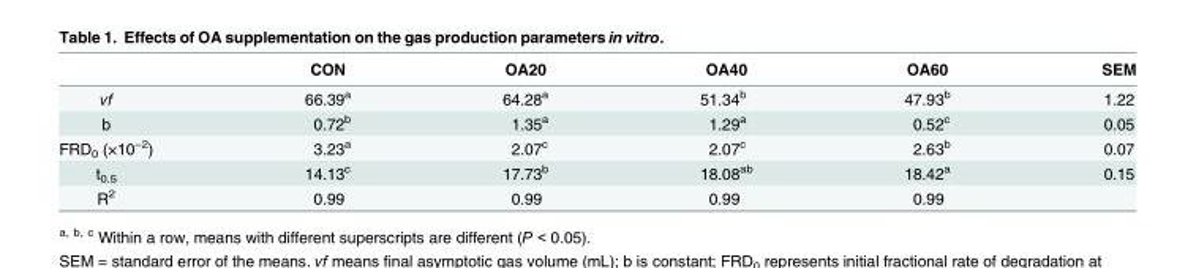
<table><thead><tr><td></td><td>CON</td><td>OA20</td><td>OA40</td><td>OA60</td><td>SEM</td></tr></thead><tbody><tr><td>vf</td><td>66.39<sup>a</sup></td><td>64.28<sup>a</sup></td><td>51.34<sup>b</sup></td><td>47.93<sup>b</sup></td><td>1.22</td></tr><tr><td>b</td><td>0.72<sup>b</sup></td><td>1.35<sup>a</sup></td><td>1.29<sup>a</sup></td><td>0.52<sup>c</sup></td><td>0.05</td></tr><tr><td>FRD<sub>0</sub> (×10<sup>−2</sup>)</td><td>3.23<sup>a</sup></td><td>2.07<sup>c</sup></td><td>2.07<sup>c</sup></td><td>2.63<sup>b</sup></td><td>0.07</td></tr><tr><td>t<sub>0.5</sub></td><td>14.13<sup>c</sup></td><td>17.73<sup>b</sup></td><td>18.08<sup>ab</sup></td><td>18.42<sup>a</sup></td><td>0.15</td></tr><tr><td>R<sup>2</sup></td><td>0.99</td><td>0.99</td><td>0.99</td><td>0.99</td><td></td></tr></tbody></table>